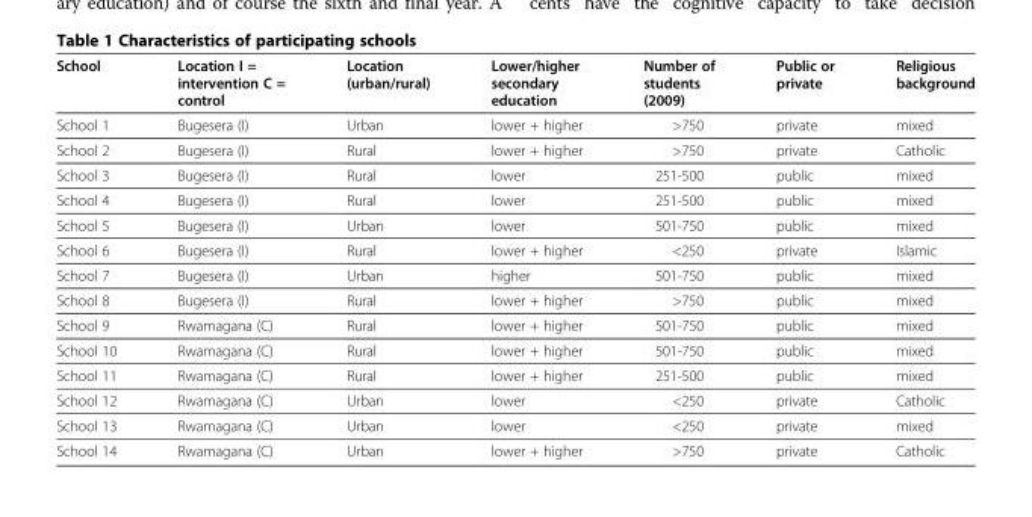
<table><thead><tr><td>School</td><td>Location I = intervention C = control</td><td>Location (urban/rural)</td><td>Lower/higher secondary education</td><td>Number of students (2009)</td><td>Public or private</td><td>Religious background</td></tr></thead><tbody><tr><td>School 1</td><td>Bugesera (I)</td><td>Urban</td><td>lower + higher</td><td>&gt;750</td><td>private</td><td>mixed</td></tr><tr><td>School 2</td><td>Bugesera (I)</td><td>Rural</td><td>lower + higher</td><td>&gt;750</td><td>private</td><td>Catholic</td></tr><tr><td>School 3</td><td>Bugesera (I)</td><td>Rural</td><td>lower</td><td>251-500</td><td>public</td><td>mixed</td></tr><tr><td>School 4</td><td>Bugesera (I)</td><td>Rural</td><td>lower</td><td>251-500</td><td>public</td><td>mixed</td></tr><tr><td>School 5</td><td>Bugesera (I)</td><td>Urban</td><td>lower</td><td>501-750</td><td>public</td><td>mixed</td></tr><tr><td>School 6</td><td>Bugesera (I)</td><td>Rural</td><td>lower + higher</td><td>&lt;250</td><td>private</td><td>Islamic</td></tr><tr><td>School 7</td><td>Bugesera (I)</td><td>Urban</td><td>higher</td><td>501-750</td><td>public</td><td>mixed</td></tr><tr><td>School 8</td><td>Bugesera (I)</td><td>Rural</td><td>lower + higher</td><td>&gt;750</td><td>public</td><td>mixed</td></tr><tr><td>School 9</td><td>Rwamagana (C)</td><td>Rural</td><td>lower + higher</td><td>501-750</td><td>public</td><td>mixed</td></tr><tr><td>School 10</td><td>Rwamagana (C)</td><td>Rural</td><td>lower + higher</td><td>501-750</td><td>public</td><td>mixed</td></tr><tr><td>School 11</td><td>Rwamagana (C)</td><td>Rural</td><td>lower + higher</td><td>251-500</td><td>public</td><td>mixed</td></tr><tr><td>School 12</td><td>Rwamagana (C)</td><td>Urban</td><td>lower</td><td>&lt;250</td><td>private</td><td>Catholic</td></tr><tr><td>School 13</td><td>Rwamagana (C)</td><td>Urban</td><td>lower</td><td>&lt;250</td><td>private</td><td>mixed</td></tr><tr><td>School 14</td><td>Rwamagana (C)</td><td>Urban</td><td>lower + higher</td><td>&gt;750</td><td>private</td><td>Catholic</td></tr></tbody></table>